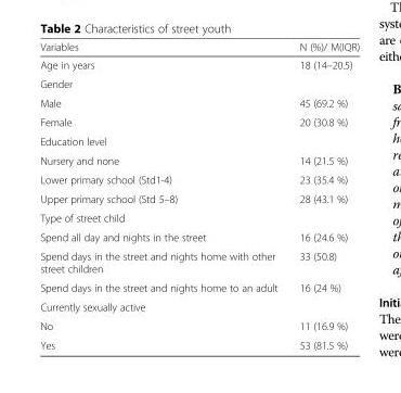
<table><thead><tr><td>Variables</td><td>N (%)/ M(IQR)</td></tr></thead><tbody><tr><td>Age in years</td><td>18 (14–20.5)</td></tr><tr><td colspan="2">Gender</td></tr><tr><td>Male</td><td>45 (69.2 %)</td></tr><tr><td>Female</td><td>20 (30.8 %)</td></tr><tr><td colspan="2">Education level</td></tr><tr><td>Nursery and none</td><td>14 (21.5 %)</td></tr><tr><td>Lower primary school (Std1-4)</td><td>23 (35.4 %)</td></tr><tr><td>Upper primary school (Std 5–8)</td><td>28 (43.1 %)</td></tr><tr><td colspan="2">Type of street child</td></tr><tr><td>Spend all day and nights in the street</td><td>16 (24.6 %)</td></tr><tr><td>Spend days in the street and nights home with other street children</td><td>33 (50.8)</td></tr><tr><td>Spend days in the street and nights home to an adult</td><td>16 (24 %)</td></tr><tr><td colspan="2">Currently sexually active</td></tr><tr><td>No</td><td>11 (16.9 %)</td></tr><tr><td>Yes</td><td>53 (81.5 %)</td></tr></tbody></table>